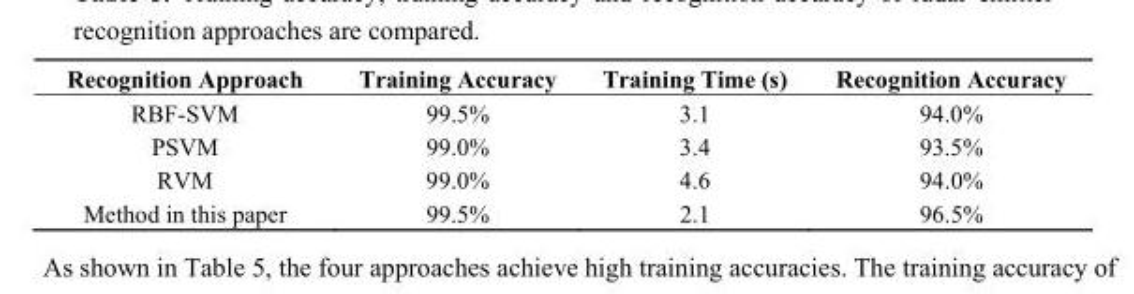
<table><thead><tr><td>Recognition Approach</td><td>Training Accuracy</td><td>Training Time (s)</td><td>Recognition Accuracy</td></tr></thead><tbody><tr><td>RBF-SVM</td><td>99.5%</td><td>3.1</td><td>94.0%</td></tr><tr><td>PSVM</td><td>99.0%</td><td>3.4</td><td>93.5%</td></tr><tr><td>RVM</td><td>99.0%</td><td>4.6</td><td>94.0%</td></tr><tr><td>Method in this paper</td><td>99.5%</td><td>2.1</td><td>96.5%</td></tr></tbody></table>